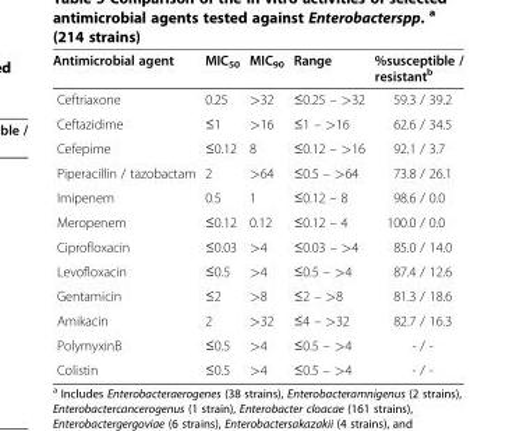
<table><thead><tr><td>Antimicrobial agent</td><td>MIC<sub>50</sub></td><td>MIC<sub>90</sub></td><td>Range</td><td>%susceptible / resistant<sup>b</sup></td></tr></thead><tbody><tr><td>Ceftriaxone</td><td>0.25</td><td>&gt;32</td><td>≤0.25 – &gt;32</td><td>59.3 / 39.2</td></tr><tr><td>Ceftazidime</td><td>≤1</td><td>&gt;16</td><td>≤1 – &gt;16</td><td>62.6 / 34.5</td></tr><tr><td>Cefepime</td><td>≤0.12</td><td>8</td><td>≤0.12 – &gt;16</td><td>92.1 / 3.7</td></tr><tr><td>Piperacillin / tazobactam</td><td>2</td><td>&gt;64</td><td>≤0.5 – &gt;64</td><td>73.8 / 26.1</td></tr><tr><td>Imipenem</td><td>0.5</td><td>1</td><td>≤0.12 – 8</td><td>98.6 / 0.0</td></tr><tr><td>Meropenem</td><td>≤0.12</td><td>0.12</td><td>≤0.12 – 4</td><td>100.0 / 0.0</td></tr><tr><td>Ciprofloxacin</td><td>≤0.03</td><td>&gt;4</td><td>≤0.03 – &gt;4</td><td>85.0 / 14.0</td></tr><tr><td>Levofloxacin</td><td>≤0.5</td><td>&gt;4</td><td>≤0.5 – &gt;4</td><td>87.4 / 12.6</td></tr><tr><td>Gentamicin</td><td>≤2</td><td>&gt;8</td><td>≤2 – &gt;8</td><td>81.3 / 18.6</td></tr><tr><td>Amikacin</td><td>2</td><td>&gt;32</td><td>≤4 – &gt;32</td><td>82.7 / 16.3</td></tr><tr><td>PolymyxinB</td><td>≤0.5</td><td>&gt;4</td><td>≤0.5 – &gt;4</td><td>- / -</td></tr><tr><td>Colistin</td><td>≤0.5</td><td>&gt;4</td><td>≤0.5 – &gt;4</td><td>- / -</td></tr></tbody></table>